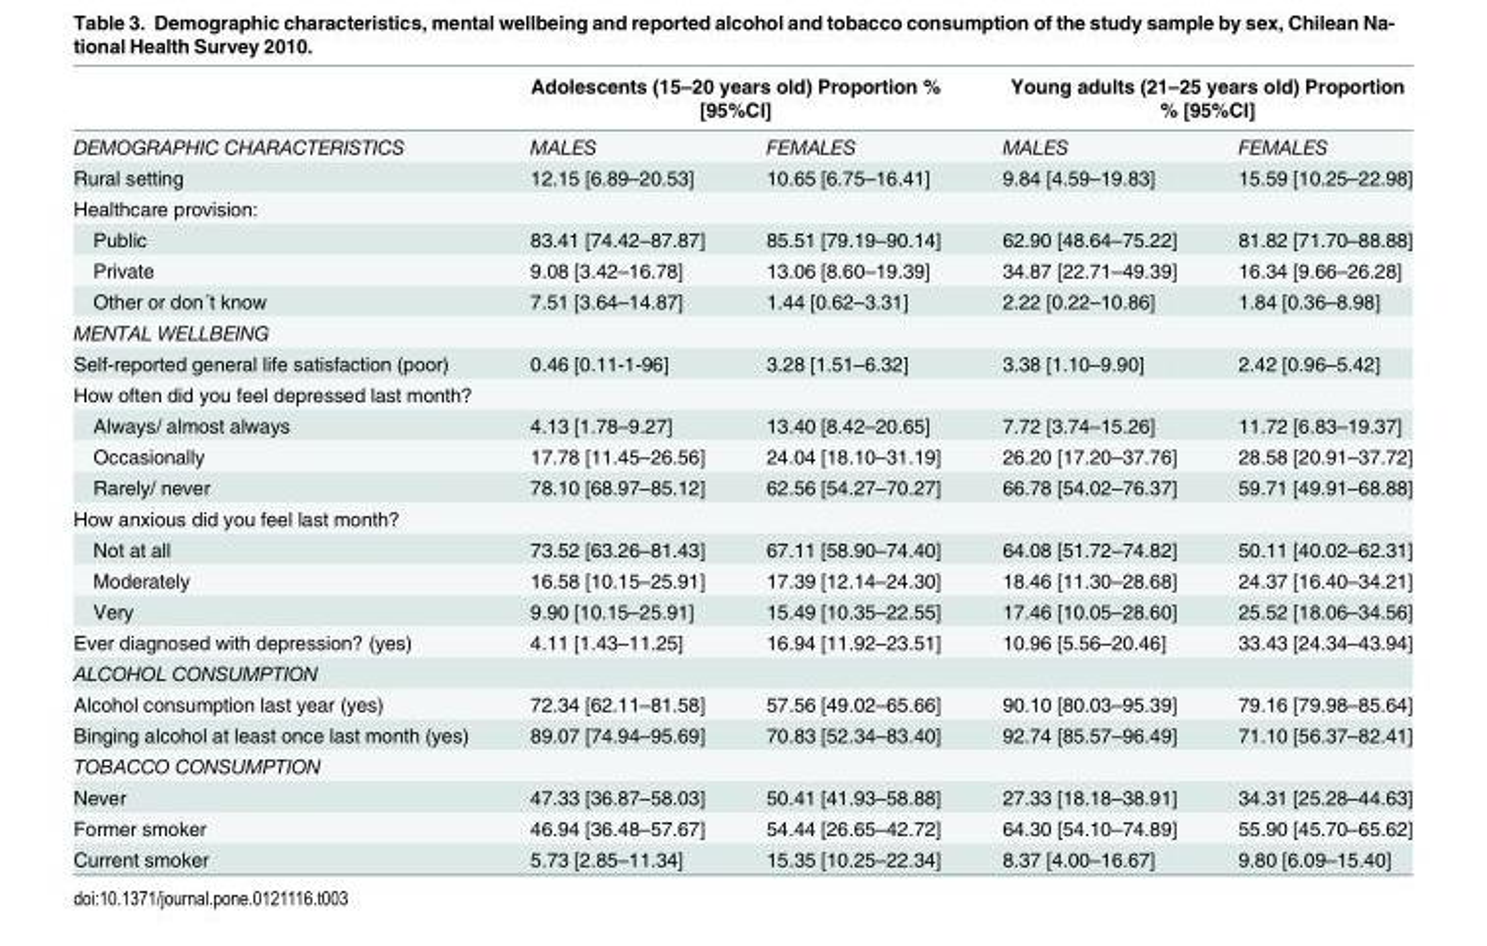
<table><thead><tr><td rowspan="2">DEMOGRAPHIC CHARACTERISTICS</td><td colspan="2">Adolescents (15–20 years old) Proportion % [95%CI]</td><td colspan="2">Young adults (21–25 years old) Proportion % [95%CI]</td></tr><tr><td>MALES</td><td>FEMALES</td><td>MALES</td><td>FEMALES</td></tr></thead><tbody><tr><td>Rural setting</td><td>12.15 [6.89–20.53]</td><td>10.65 [6.75–16.41]</td><td>9.84 [4.59–19.83]</td><td>15.59 [10.25–22.98]</td></tr><tr><td colspan="5">Healthcare provision:</td></tr><tr><td>Public</td><td>83.41 [74.42–87.87]</td><td>85.51 [79.19–90.14]</td><td>62.90 [48.64–75.22]</td><td>81.82 [71.70–88.88]</td></tr><tr><td>Private</td><td>9.08 [3.42–16.78]</td><td>13.06 [8.60–19.39]</td><td>34.87 [22.71–49.39]</td><td>16.34 [9.66–26.28]</td></tr><tr><td>Other or don´t know</td><td>7.51 [3.64–14.87]</td><td>1.44 [0.62–3.31]</td><td>2.22 [0.22–10.86]</td><td>1.84 [0.36–8.98]</td></tr><tr><td colspan="5">MENTAL WELLBEING</td></tr><tr><td>Self-reported general life satisfaction (poor)</td><td>0.46 [0.11-1-96]</td><td>3.28 [1.51–6.32]</td><td>3.38 [1.10–9.90]</td><td>2.42 [0.96–5.42]</td></tr><tr><td colspan="5">How often did you feel depressed last month?</td></tr><tr><td>Always/ almost always</td><td>4.13 [1.78–9.27]</td><td>13.40 [8.42–20.65]</td><td>7.72 [3.74–15.26]</td><td>11.72 [6.83–19.37]</td></tr><tr><td>Occasionally</td><td>17.78 [11.45–26.56]</td><td>24.04 [18.10–31.19]</td><td>26.20 [17.20–37.76]</td><td>28.58 [20.91–37.72]</td></tr><tr><td>Rarely/ never</td><td>78.10 [68.97–85.12]</td><td>62.56 [54.27–70.27]</td><td>66.78 [54.02–76.37]</td><td>59.71 [49.91–68.88]</td></tr><tr><td colspan="5">How anxious did you feel last month?</td></tr><tr><td>Not at all</td><td>73.52 [63.26–81.43]</td><td>67.11 [58.90–74.40]</td><td>64.08 [51.72–74.82]</td><td>50.11 [40.02–62.31]</td></tr><tr><td>Moderately</td><td>16.58 [10.15–25.91]</td><td>17.39 [12.14–24.30]</td><td>18.46 [11.30–28.68]</td><td>24.37 [16.40–34.21]</td></tr><tr><td>Very</td><td>9.90 [10.15–25.91]</td><td>15.49 [10.35–22.55]</td><td>17.46 [10.05–28.60]</td><td>25.52 [18.06–34.56]</td></tr><tr><td>Ever diagnosed with depression? (yes)</td><td>4.11 [1.43–11.25]</td><td>16.94 [11.92–23.51]</td><td>10.96 [5.56–20.46]</td><td>33.43 [24.34–43.94]</td></tr><tr><td colspan="5">ALCOHOL CONSUMPTION</td></tr><tr><td>Alcohol consumption last year (yes)</td><td>72.34 [62.11–81.58]</td><td>57.56 [49.02–65.66]</td><td>90.10 [80.03–95.39]</td><td>79.16 [79.98–85.64]</td></tr><tr><td>Binging alcohol at least once last month (yes)</td><td>89.07 [74.94–95.69]</td><td>70.83 [52.34–83.40]</td><td>92.74 [85.57–96.49]</td><td>71.10 [56.37–82.41]</td></tr><tr><td colspan="5">TOBACCO CONSUMPTION</td></tr><tr><td>Never</td><td>47.33 [36.87–58.03]</td><td>50.41 [41.93–58.88]</td><td>27.33 [18.18–38.91]</td><td>34.31 [25.28–44.63]</td></tr><tr><td>Former smoker</td><td>46.94 [36.48–57.67]</td><td>54.44 [26.65–42.72]</td><td>64.30 [54.10–74.89]</td><td>55.90 [45.70–65.62]</td></tr><tr><td>Current smoker</td><td>5.73 [2.85–11.34]</td><td>15.35 [10.25–22.34]</td><td>8.37 [4.00–16.67]</td><td>9.80 [6.09–15.40]</td></tr></tbody></table>